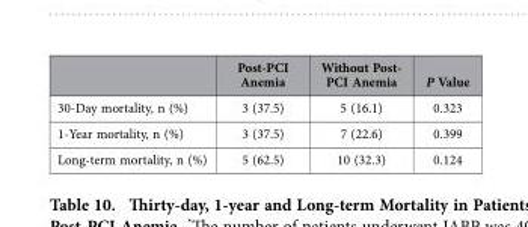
<table><thead><tr><td></td><td>Post-PCI Anemia</td><td>Without Post- PCI Anemia</td><td>P Value</td></tr></thead><tbody><tr><td>30-Day mortality, n (%)</td><td>3 (37.5)</td><td>5 (16.1)</td><td>0.323</td></tr><tr><td>1-Year mortality, n (%)</td><td>3 (37.5)</td><td>7 (22.6)</td><td>0.399</td></tr><tr><td>Long-term mortality, n (%)</td><td>5 (62.5)</td><td>10 (32.3)</td><td>0.124</td></tr></tbody></table>